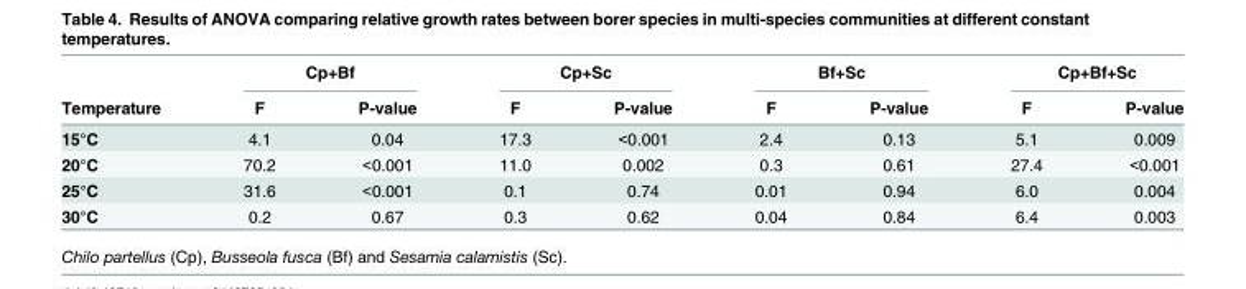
<table><thead><tr><td rowspan="2">Temperature</td><td colspan="2">Cp+Bf</td><td colspan="2">Cp+Sc</td><td colspan="2">Bf+Sc</td><td colspan="2">Cp+Bf+Sc</td></tr><tr><td>F</td><td>P-value</td><td>F</td><td>P-value</td><td>F</td><td>P-value</td><td>F</td><td>P-value</td></tr></thead><tbody><tr><td>15°C</td><td>4.1</td><td>0.04</td><td>17.3</td><td>&lt;0.001</td><td>2.4</td><td>0.13</td><td>5.1</td><td>0.009</td></tr><tr><td>20°C</td><td>70.2</td><td>&lt;0.001</td><td>11.0</td><td>0.002</td><td>0.3</td><td>0.61</td><td>27.4</td><td>&lt;0.001</td></tr><tr><td>25°C</td><td>31.6</td><td>&lt;0.001</td><td>0.1</td><td>0.74</td><td>0.01</td><td>0.94</td><td>6.0</td><td>0.004</td></tr><tr><td>30°C</td><td>0.2</td><td>0.67</td><td>0.3</td><td>0.62</td><td>0.04</td><td>0.84</td><td>6.4</td><td>0.003</td></tr></tbody></table>